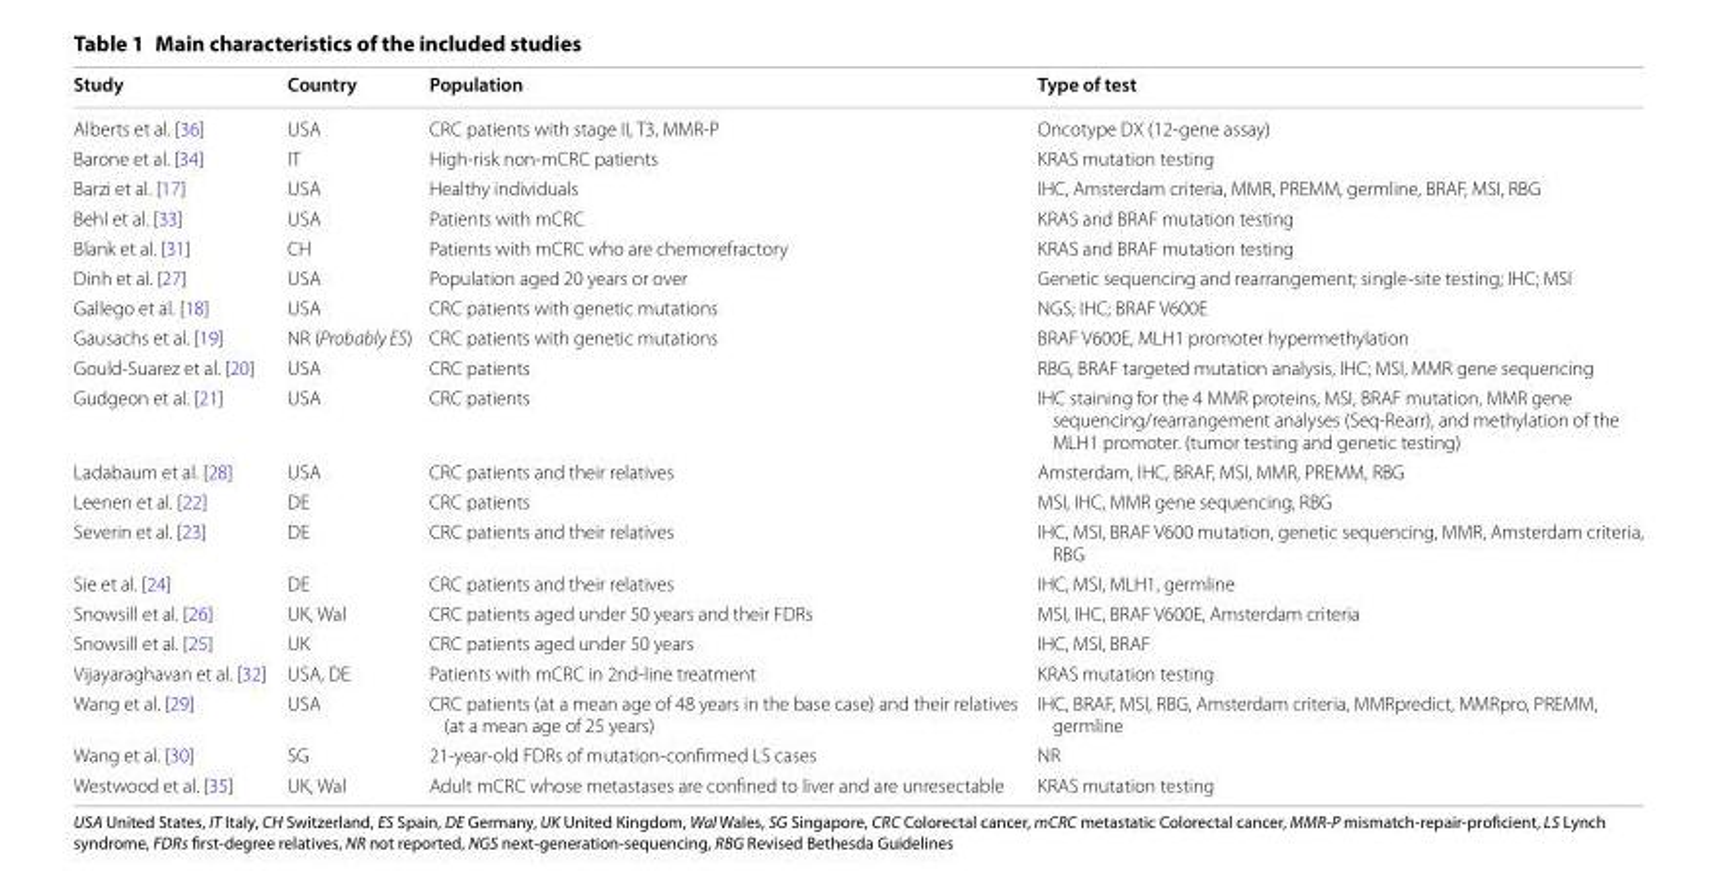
<table><thead><tr><td>Study</td><td>Country</td><td>Population</td><td>Type of test</td></tr></thead><tbody><tr><td>Alberts et al. [36]</td><td>USA</td><td>CRC patients with stage II, T3, MMR-P</td><td>Oncotype DX (12-gene assay)</td></tr><tr><td>Barone et al. [34]</td><td>IT</td><td>High-risk non-mCRC patients</td><td>KRAS mutation testing</td></tr><tr><td>Barzi et al. [17]</td><td>USA</td><td>Healthy individuals</td><td>IHC, Amsterdam criteria, MMR, PREMM, germline, BRAF, MSI, RBG</td></tr><tr><td>Behl et al. [33]</td><td>USA</td><td>Patients with mCRC</td><td>KRAS and BRAF mutation testing</td></tr><tr><td>Blank et al. [31]</td><td>CH</td><td>Patients with mCRC who are chemorefractory</td><td>KRAS and BRAF mutation testing</td></tr><tr><td>Dinh et al. [27]</td><td>USA</td><td>Population aged 20 years or over</td><td>Genetic sequencing and rearrangement; single-site testing; IHC; MSI</td></tr><tr><td>Gallego et al. [18]</td><td>USA</td><td>CRC patients with genetic mutations</td><td>NGS; IHC; BRAF V600E</td></tr><tr><td>Gausachs et al. [19]</td><td>NR (Probably ES)</td><td>CRC patients with genetic mutations</td><td>BRAF V600E, MLH1 promoter hypermethylation</td></tr><tr><td>Gould-Suarez et al. [20]</td><td>USA</td><td>CRC patients</td><td>RBG, BRAF targeted mutation analysis, IHC; MSI, MMR gene sequencing</td></tr><tr><td>Gudgeon et al. [21]</td><td>USA</td><td>CRC patients</td><td>IHC staining for the 4 MMR proteins, MSI, BRAF mutation, MMR gene sequencing/rearrangement analyses (Seq-Rearr), and methylation of the MLH1 promoter. (tumor testing and genetic testing)</td></tr><tr><td>Ladabaum et al. [28]</td><td>USA</td><td>CRC patients and their relatives</td><td>Amsterdam, IHC, BRAF, MSI, MMR, PREMM, RBG</td></tr><tr><td>Leenen et al. [22]</td><td>DE</td><td>CRC patients</td><td>MSI, IHC, MMR gene sequencing, RBG</td></tr><tr><td>Severin et al. [23]</td><td>DE</td><td>CRC patients and their relatives</td><td>IHC, MSI, BRAF V600 mutation, genetic sequencing, MMR, Amsterdam criteria, RBG</td></tr><tr><td>Sie et al. [24]</td><td>DE</td><td>CRC patients and their relatives</td><td>IHC, MSI, MLH1, germline</td></tr><tr><td>Snowsill et al. [26]</td><td>UK, Wal</td><td>CRC patients aged under 50 years and their FDRs</td><td>MSI, IHC, BRAF V600E, Amsterdam criteria</td></tr><tr><td>Snowsill et al. [25]</td><td>UK</td><td>CRC patients aged under 50 years</td><td>IHC, MSI, BRAF</td></tr><tr><td>Vijayaraghavan et al. [32]</td><td>USA, DE</td><td>Patients with mCRC in 2nd-line treatment</td><td>KRAS mutation testing</td></tr><tr><td>Wang et al. [29]</td><td>USA</td><td>CRC patients (at a mean age of 48 years in the base case) and their relatives (at a mean age of 25 years)</td><td>IHC, BRAF, MSI, RBG, Amsterdam criteria, MMRpredict, MMRpro, PREMM, germline</td></tr><tr><td>Wang et al. [30]</td><td>SG</td><td>21-year-old FDRs of mutation-confirmed LS cases</td><td>NR</td></tr><tr><td>Westwood et al. [35]</td><td>UK, Wal</td><td>Adult mCRC whose metastases are confined to liver and are unresectable</td><td>KRAS mutation testing</td></tr></tbody></table>